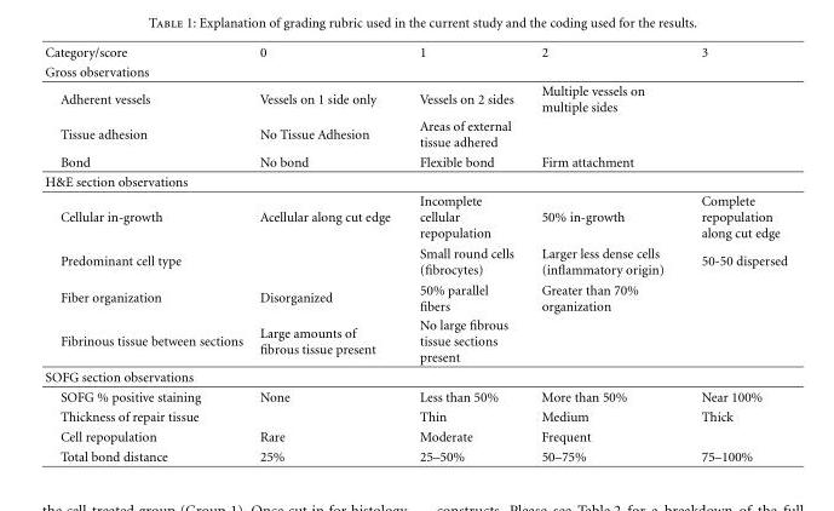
<table><thead><tr><td rowspan="2">Category/score Gross observations</td><td rowspan="2">0</td><td rowspan="2">1</td><td rowspan="2">2</td><td rowspan="2">3</td></tr><tr></tr></thead><tbody><tr><td>Adherent vessels</td><td>Vessels on 1 side only</td><td>Vessels on 2 sides</td><td>Multiple vessels on multiple sides</td><td></td></tr><tr><td>Tissue adhesion</td><td>No Tissue Adhesion</td><td>Areas of external tissue adhered</td><td></td><td></td></tr><tr><td>Bond</td><td>No bond</td><td>Flexible bond</td><td>Firm attachment</td><td></td></tr><tr><td colspan="5">H&amp;E section observations</td></tr><tr><td>Cellular in-growth</td><td>Acellular along cut edge</td><td>Incomplete cellular repopulation</td><td>50% in-growth</td><td>Complete repopulation along cut edge</td></tr><tr><td>Predominant cell type</td><td></td><td>Small round cells (fibrocytes)</td><td>Larger less dense cells (inflammatory origin)</td><td>50-50 dispersed</td></tr><tr><td>Fiber organization</td><td>Disorganized</td><td>50% parallel fibers</td><td>Greater than 70% organization</td><td></td></tr><tr><td>Fibrinous tissue between sections</td><td>Large amounts of fibrous tissue present</td><td>No large fibrous tissue sections present</td><td></td><td></td></tr><tr><td colspan="5">SOFG section observations</td></tr><tr><td>SOFG % positive staining</td><td>None</td><td>Less than 50%</td><td>More than 50%</td><td>Near 100%</td></tr><tr><td>Thickness of repair tissue</td><td></td><td>Thin</td><td>Medium</td><td>Thick</td></tr><tr><td>Cell repopulation</td><td>Rare</td><td>Moderate</td><td>Frequent</td><td></td></tr><tr><td>Total bond distance</td><td>25%</td><td>25–50%</td><td>50–75%</td><td>75–100%</td></tr></tbody></table>